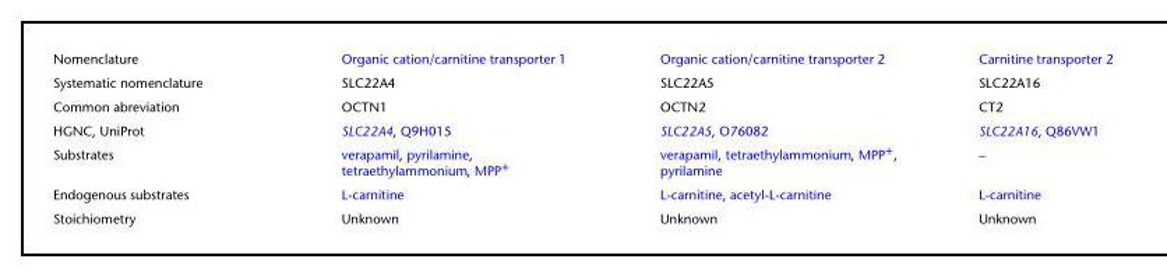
<table><tbody><tr><td>Nomenclature</td><td>Organic cation/carnitine transporter 1</td><td>Organic cation/carnitine transporter 2</td><td>Carnitine transporter 2</td></tr><tr><td>Systematic nomenclature</td><td>SLC22A4</td><td>SLC22A5</td><td>SLC22A16</td></tr><tr><td>Common abreviation</td><td>OCTN1</td><td>OCTN2</td><td>CT2</td></tr><tr><td>HGNC, UniProt</td><td>SLC22A4, Q9H015</td><td>SLC22A5, O76082</td><td>SLC22A16, Q86VW1</td></tr><tr><td>Substrates</td><td>verapamil, pyrilamine, tetraethylammonium, MPP<sup>+</sup></td><td>verapamil, tetraethylammonium, MPP<sup>+</sup>, pyrilamine</td><td>–</td></tr><tr><td>Endogenous substrates</td><td>L-carnitine</td><td>L-carnitine, acetyl-L-carnitine</td><td>L-carnitine</td></tr><tr><td>Stoichiometry</td><td>Unknown</td><td>Unknown</td><td>Unknown</td></tr></tbody></table>